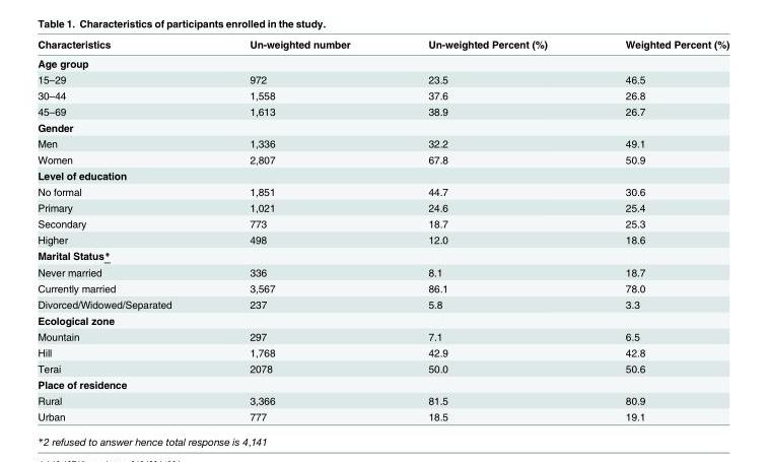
<table><thead><tr><td>Characteristics</td><td>Un-weighted number</td><td>Un-weighted Percent (%)</td><td>Weighted Percent (%)</td></tr></thead><tbody><tr><td colspan="4">Age group</td></tr><tr><td>15–29</td><td>972</td><td>23.5</td><td>46.5</td></tr><tr><td>30–44</td><td>1,558</td><td>37.6</td><td>26.8</td></tr><tr><td>45–69</td><td>1,613</td><td>38.9</td><td>26.7</td></tr><tr><td colspan="4">Gender</td></tr><tr><td>Men</td><td>1,336</td><td>32.2</td><td>49.1</td></tr><tr><td>Women</td><td>2,807</td><td>67.8</td><td>50.9</td></tr><tr><td colspan="4">Level of education</td></tr><tr><td>No formal</td><td>1,851</td><td>44.7</td><td>30.6</td></tr><tr><td>Primary</td><td>1,021</td><td>24.6</td><td>25.4</td></tr><tr><td>Secondary</td><td>773</td><td>18.7</td><td>25.3</td></tr><tr><td>Higher</td><td>498</td><td>12.0</td><td>18.6</td></tr><tr><td colspan="4">Marital Status*</td></tr><tr><td>Never married</td><td>336</td><td>8.1</td><td>18.7</td></tr><tr><td>Currently married</td><td>3,567</td><td>86.1</td><td>78.0</td></tr><tr><td>Divorced/Widowed/Separated</td><td>237</td><td>5.8</td><td>3.3</td></tr><tr><td colspan="4">Ecological zone</td></tr><tr><td>Mountain</td><td>297</td><td>7.1</td><td>6.5</td></tr><tr><td>Hill</td><td>1,768</td><td>42.9</td><td>42.8</td></tr><tr><td>Terai</td><td>2078</td><td>50.0</td><td>50.6</td></tr><tr><td colspan="4">Place of residence</td></tr><tr><td>Rural</td><td>3,366</td><td>81.5</td><td>80.9</td></tr><tr><td>Urban</td><td>777</td><td>18.5</td><td>19.1</td></tr></tbody></table>